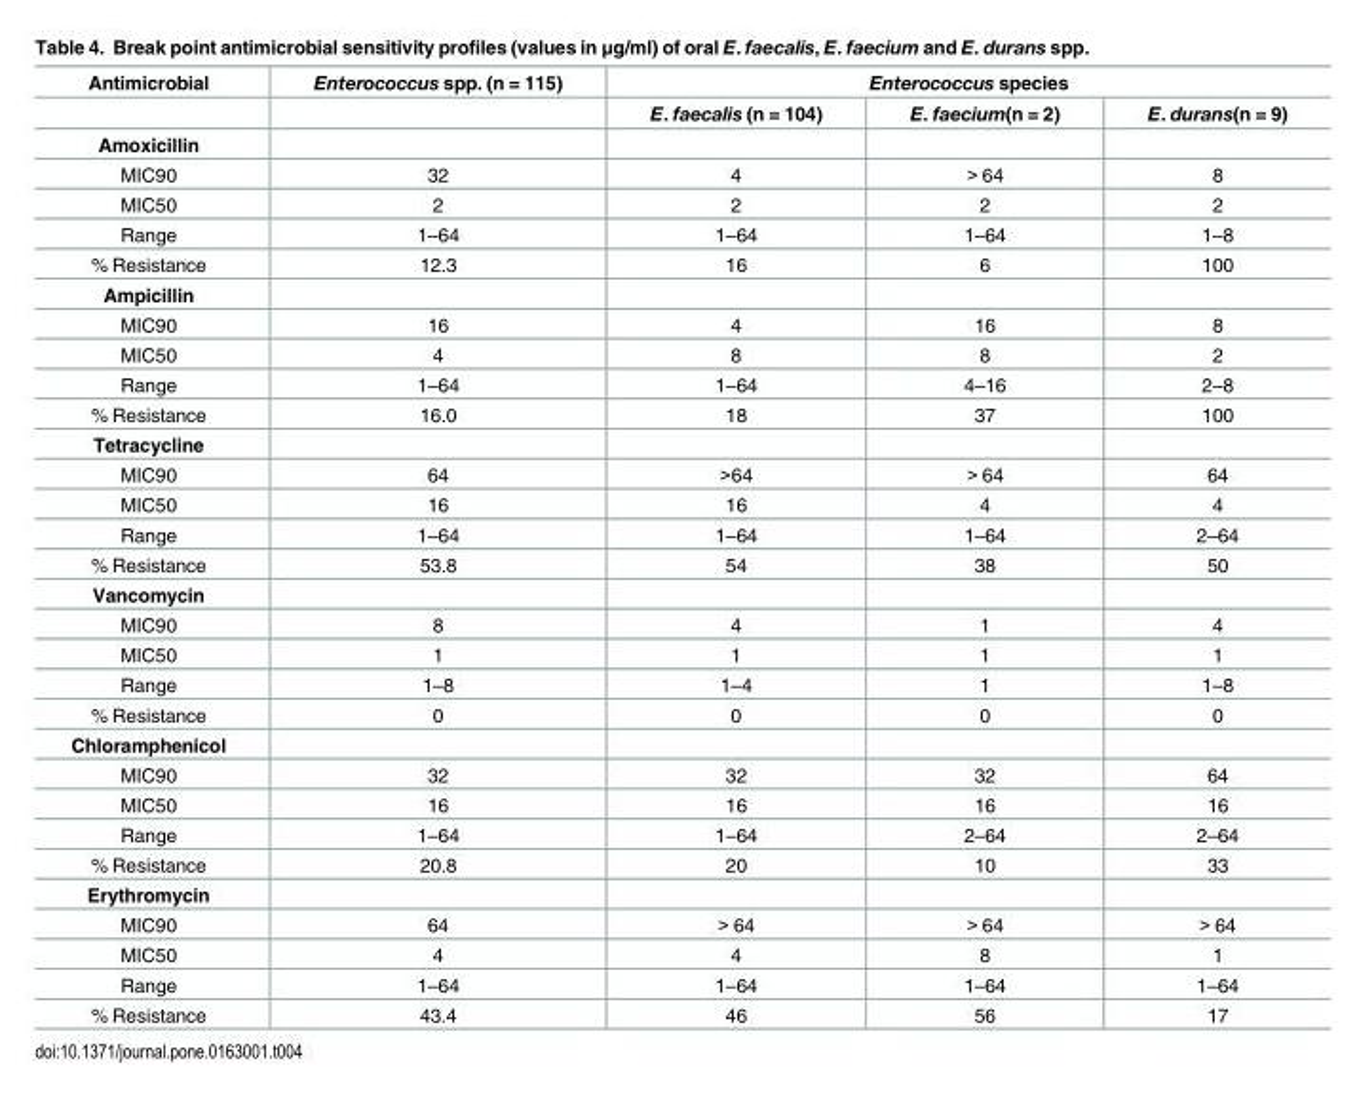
<table><thead><tr><td rowspan="2">Antimicrobial</td><td rowspan="2">Enterococcus spp. (n = 115)</td><td colspan="3">Enterococcus species</td></tr><tr><td>E. faecalis (n = 104)</td><td>E. faecium(n = 2)</td><td>E. durans(n = 9)</td></tr></thead><tbody><tr><td colspan="5">Amoxicillin</td></tr><tr><td>MIC90</td><td>32</td><td>4</td><td>&gt; 64</td><td>8</td></tr><tr><td>MIC50</td><td>2</td><td>2</td><td>2</td><td>2</td></tr><tr><td>Range</td><td>1–64</td><td>1–64</td><td>1–64</td><td>1–8</td></tr><tr><td>% Resistance</td><td>12.3</td><td>16</td><td>6</td><td>100</td></tr><tr><td colspan="5">Ampicillin</td></tr><tr><td>MIC90</td><td>16</td><td>4</td><td>16</td><td>8</td></tr><tr><td>MIC50</td><td>4</td><td>8</td><td>8</td><td>2</td></tr><tr><td>Range</td><td>1–64</td><td>1–64</td><td>4–16</td><td>2–8</td></tr><tr><td>% Resistance</td><td>16.0</td><td>18</td><td>37</td><td>100</td></tr><tr><td colspan="5">Tetracycline</td></tr><tr><td>MIC90</td><td>64</td><td>&gt;64</td><td>&gt; 64</td><td>64</td></tr><tr><td>MIC50</td><td>16</td><td>16</td><td>4</td><td>4</td></tr><tr><td>Range</td><td>1–64</td><td>1–64</td><td>1–64</td><td>2–64</td></tr><tr><td>% Resistance</td><td>53.8</td><td>54</td><td>38</td><td>50</td></tr><tr><td colspan="5">Vancomycin</td></tr><tr><td>MIC90</td><td>8</td><td>4</td><td>1</td><td>4</td></tr><tr><td>MIC50</td><td>1</td><td>1</td><td>1</td><td>1</td></tr><tr><td>Range</td><td>1–8</td><td>1–4</td><td>1</td><td>1–8</td></tr><tr><td>% Resistance</td><td>0</td><td>0</td><td>0</td><td>0</td></tr><tr><td colspan="5">Chloramphenicol</td></tr><tr><td>MIC90</td><td>32</td><td>32</td><td>32</td><td>64</td></tr><tr><td>MIC50</td><td>16</td><td>16</td><td>16</td><td>16</td></tr><tr><td>Range</td><td>1–64</td><td>1–64</td><td>2–64</td><td>2–64</td></tr><tr><td>% Resistance</td><td>20.8</td><td>20</td><td>10</td><td>33</td></tr><tr><td colspan="5">Erythromycin</td></tr><tr><td>MIC90</td><td>64</td><td>&gt; 64</td><td>&gt; 64</td><td>&gt; 64</td></tr><tr><td>MIC50</td><td>4</td><td>4</td><td>8</td><td>1</td></tr><tr><td>Range</td><td>1–64</td><td>1–64</td><td>1–64</td><td>1–64</td></tr><tr><td>% Resistance</td><td>43.4</td><td>46</td><td>56</td><td>17</td></tr></tbody></table>